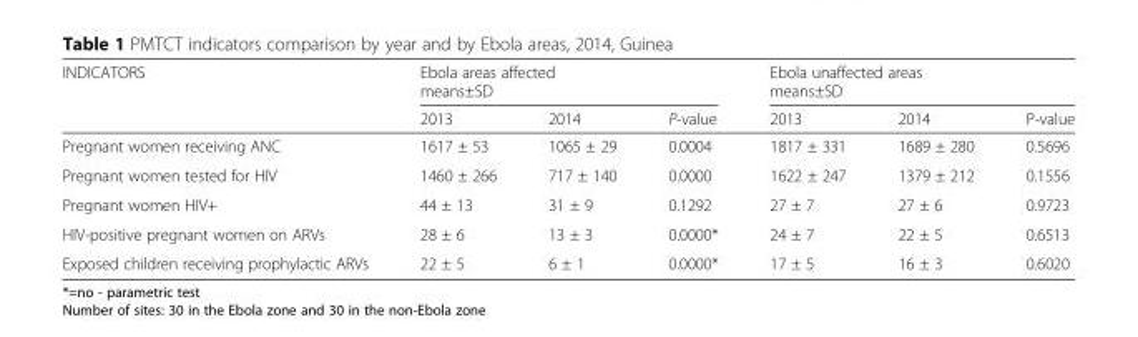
<table><thead><tr><td rowspan="2">INDICATORS</td><td colspan="3">Ebola areas affected means±SD</td><td colspan="3">Ebola unaffected areas means±SD</td></tr><tr><td>2013</td><td>2014</td><td>P-value</td><td>2013</td><td>2014</td><td>P-value</td></tr></thead><tbody><tr><td>Pregnant women receiving ANC</td><td>1617 ± 53</td><td>1065 ± 29</td><td>0.0004</td><td>1817 ± 331</td><td>1689 ± 280</td><td>0.5696</td></tr><tr><td>Pregnant women tested for HIV</td><td>1460 ± 266</td><td>717 ± 140</td><td>0.0000</td><td>1622 ± 247</td><td>1379 ± 212</td><td>0.1556</td></tr><tr><td>Pregnant women HIV+</td><td>44 ± 13</td><td>31 ± 9</td><td>0.1292</td><td>27 ± 7</td><td>27 ± 6</td><td>0.9723</td></tr><tr><td>HIV-positive pregnant women on ARVs</td><td>28 ± 6</td><td>13 ± 3</td><td>0.0000*</td><td>24 ± 7</td><td>22 ± 5</td><td>0.6513</td></tr><tr><td>Exposed children receiving prophylactic ARVs</td><td>22 ± 5</td><td>6 ± 1</td><td>0.0000*</td><td>17 ± 5</td><td>16 ± 3</td><td>0.6020</td></tr></tbody></table>